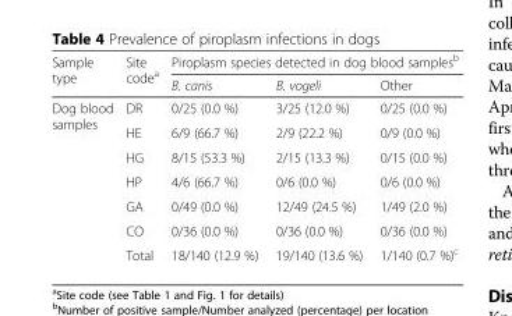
<table><thead><tr><td rowspan="2">Sample type</td><td rowspan="2">Site code<sup>a</sup></td><td colspan="3">Piroplasm species detected in dog blood samples<sup>b</sup></td></tr><tr><td>B. canis</td><td>B. vogeli</td><td>Other</td></tr></thead><tbody><tr><td rowspan="7">Dog blood samples</td><td>DR</td><td>0/25 (0.0 %)</td><td>3/25 (12.0 %)</td><td>0/25 (0.0 %)</td></tr><tr><td>HE</td><td>6/9 (66.7 %)</td><td>2/9 (22.2 %)</td><td>0/9 (0.0 %)</td></tr><tr><td>HG</td><td>8/15 (53.3 %)</td><td>2/15 (13.3 %)</td><td>0/15 (0.0 %)</td></tr><tr><td>HP</td><td>4/6 (66.7 %)</td><td>0/6 (0.0 %)</td><td>0/6 (0.0 %)</td></tr><tr><td>GA</td><td>0/49 (0.0 %)</td><td>12/49 (24.5 %)</td><td>1/49 (2.0 %)</td></tr><tr><td>CO</td><td>0/36 (0.0 %)</td><td>0/36 (0.0 %)</td><td>0/36 (0.0 %)</td></tr><tr><td>Total</td><td>18/140 (12.9 %)</td><td>19/140 (13.6 %)</td><td>1/140 (0.7 %)<sup>c</sup></td></tr></tbody></table>